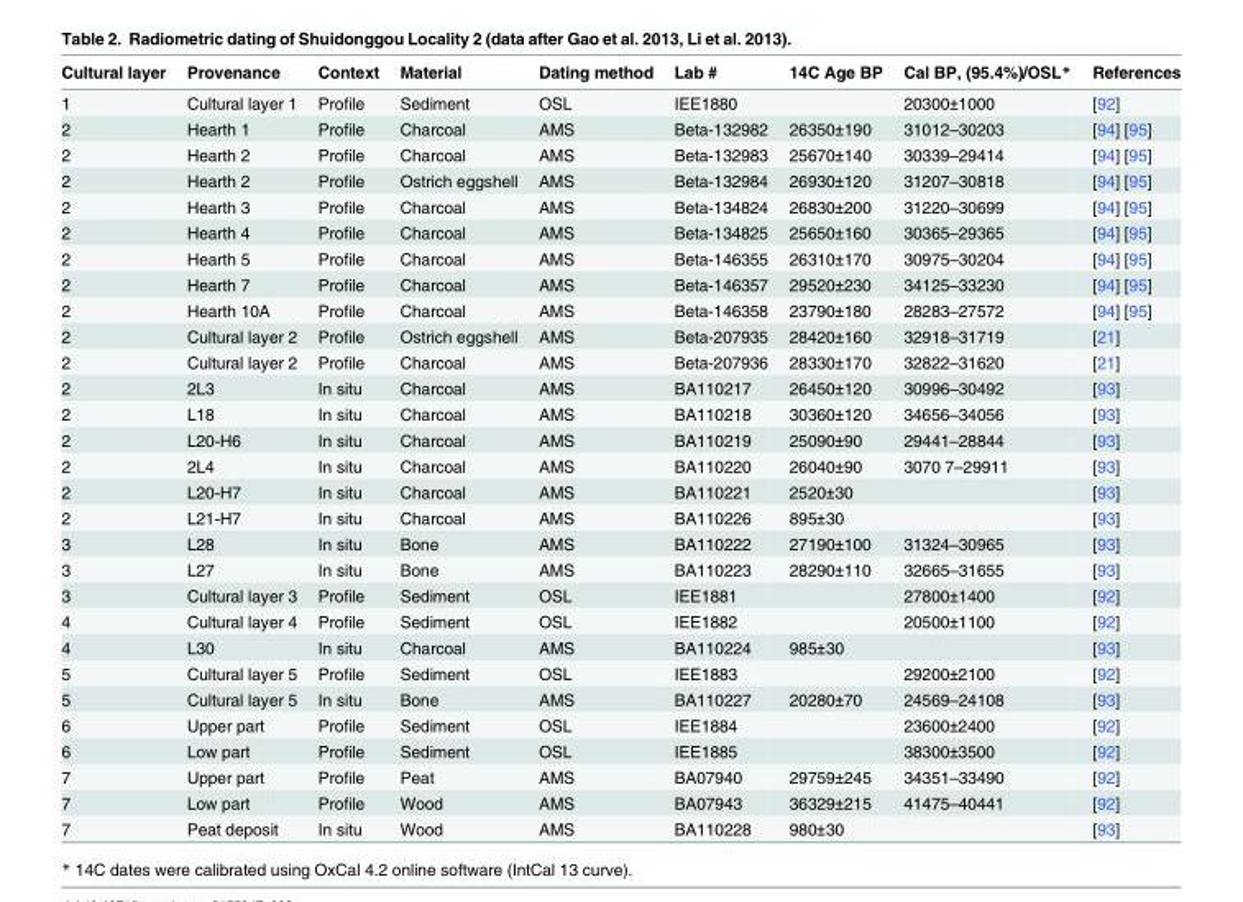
<table><thead><tr><td>Cultural layer</td><td>Provenance</td><td>Context</td><td>Material</td><td>Dating method</td><td>Lab #</td><td>14C Age BP</td><td>Cal BP, (95.4%)/OSL*</td><td>References</td></tr></thead><tbody><tr><td>1</td><td>Cultural layer 1</td><td>Profile</td><td>Sediment</td><td>OSL</td><td>IEE1880</td><td></td><td>20300±1000</td><td>[92]</td></tr><tr><td>2</td><td>Hearth 1</td><td>Profile</td><td>Charcoal</td><td>AMS</td><td>Beta-132982</td><td>26350±190</td><td>31012–30203</td><td>[94] [95]</td></tr><tr><td>2</td><td>Hearth 2</td><td>Profile</td><td>Charcoal</td><td>AMS</td><td>Beta-132983</td><td>25670±140</td><td>30339–29414</td><td>[94] [95]</td></tr><tr><td>2</td><td>Hearth 2</td><td>Profile</td><td>Ostrich eggshell</td><td>AMS</td><td>Beta-132984</td><td>26930±120</td><td>31207–30818</td><td>[94] [95]</td></tr><tr><td>2</td><td>Hearth 3</td><td>Profile</td><td>Charcoal</td><td>AMS</td><td>Beta-134824</td><td>26830±200</td><td>31220–30699</td><td>[94] [95]</td></tr><tr><td>2</td><td>Hearth 4</td><td>Profile</td><td>Charcoal</td><td>AMS</td><td>Beta-134825</td><td>25650±160</td><td>30365–29365</td><td>[94] [95]</td></tr><tr><td>2</td><td>Hearth 5</td><td>Profile</td><td>Charcoal</td><td>AMS</td><td>Beta-146355</td><td>26310±170</td><td>30975–30204</td><td>[94] [95]</td></tr><tr><td>2</td><td>Hearth 7</td><td>Profile</td><td>Charcoal</td><td>AMS</td><td>Beta-146357</td><td>29520±230</td><td>34125–33230</td><td>[94] [95]</td></tr><tr><td>2</td><td>Hearth 10A</td><td>Profile</td><td>Charcoal</td><td>AMS</td><td>Beta-146358</td><td>23790±180</td><td>28283–27572</td><td>[94] [95]</td></tr><tr><td>2</td><td>Cultural layer 2</td><td>Profile</td><td>Ostrich eggshell</td><td>AMS</td><td>Beta-207935</td><td>28420±160</td><td>32918–31719</td><td>[21]</td></tr><tr><td>2</td><td>Cultural layer 2</td><td>Profile</td><td>Charcoal</td><td>AMS</td><td>Beta-207936</td><td>28330±170</td><td>32822–31620</td><td>[21]</td></tr><tr><td>2</td><td>2L3</td><td>In situ</td><td>Charcoal</td><td>AMS</td><td>BA110217</td><td>26450±120</td><td>30996–30492</td><td>[93]</td></tr><tr><td>2</td><td>L18</td><td>In situ</td><td>Charcoal</td><td>AMS</td><td>BA110218</td><td>30360±120</td><td>34656–34056</td><td>[93]</td></tr><tr><td>2</td><td>L20-H6</td><td>In situ</td><td>Charcoal</td><td>AMS</td><td>BA110219</td><td>25090±90</td><td>29441–28844</td><td>[93]</td></tr><tr><td>2</td><td>2L4</td><td>In situ</td><td>Charcoal</td><td>AMS</td><td>BA110220</td><td>26040±90</td><td>3070 7–29911</td><td>[93]</td></tr><tr><td>2</td><td>L20-H7</td><td>In situ</td><td>Charcoal</td><td>AMS</td><td>BA110221</td><td>2520±30</td><td></td><td>[93]</td></tr><tr><td>2</td><td>L21-H7</td><td>In situ</td><td>Charcoal</td><td>AMS</td><td>BA110226</td><td>895±30</td><td></td><td>[93]</td></tr><tr><td>3</td><td>L28</td><td>In situ</td><td>Bone</td><td>AMS</td><td>BA110222</td><td>27190±100</td><td>31324–30965</td><td>[93]</td></tr><tr><td>3</td><td>L27</td><td>In situ</td><td>Bone</td><td>AMS</td><td>BA110223</td><td>28290±110</td><td>32665–31655</td><td>[93]</td></tr><tr><td>3</td><td>Cultural layer 3</td><td>Profile</td><td>Sediment</td><td>OSL</td><td>IEE1881</td><td></td><td>27800±1400</td><td>[92]</td></tr><tr><td>4</td><td>Cultural layer 4</td><td>Profile</td><td>Sediment</td><td>OSL</td><td>IEE1882</td><td></td><td>20500±1100</td><td>[92]</td></tr><tr><td>4</td><td>L30</td><td>In situ</td><td>Charcoal</td><td>AMS</td><td>BA110224</td><td>985±30</td><td></td><td>[93]</td></tr><tr><td>5</td><td>Cultural layer 5</td><td>Profile</td><td>Sediment</td><td>OSL</td><td>IEE1883</td><td></td><td>29200±2100</td><td>[92]</td></tr><tr><td>5</td><td>Cultural layer 5</td><td>In situ</td><td>Bone</td><td>AMS</td><td>BA110227</td><td>20280±70</td><td>24569–24108</td><td>[93]</td></tr><tr><td>6</td><td>Upper part</td><td>Profile</td><td>Sediment</td><td>OSL</td><td>IEE1884</td><td></td><td>23600±2400</td><td>[92]</td></tr><tr><td>6</td><td>Low part</td><td>Profile</td><td>Sediment</td><td>OSL</td><td>IEE1885</td><td></td><td>38300±3500</td><td>[92]</td></tr><tr><td>7</td><td>Upper part</td><td>Profile</td><td>Peat</td><td>AMS</td><td>BA07940</td><td>29759±245</td><td>34351–33490</td><td>[92]</td></tr><tr><td>7</td><td>Low part</td><td>Profile</td><td>Wood</td><td>AMS</td><td>BA07943</td><td>36329±215</td><td>41475–40441</td><td>[92]</td></tr><tr><td>7</td><td>Peat deposit</td><td>In situ</td><td>Wood</td><td>AMS</td><td>BA110228</td><td>980±30</td><td></td><td>[93]</td></tr></tbody></table>